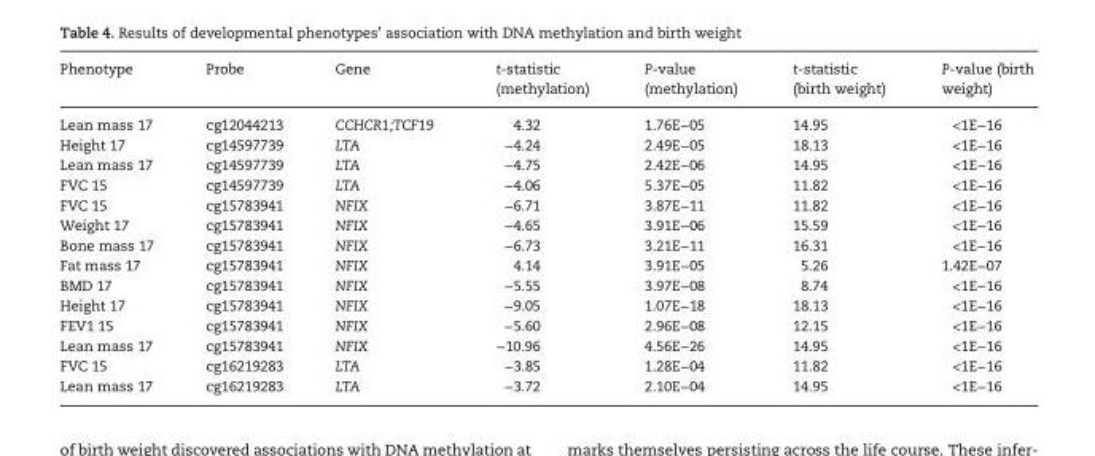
<table><thead><tr><td>Phenotype</td><td>Probe</td><td>Gene</td><td>t-statistic (methylation)</td><td>P-value (methylation)</td><td>t-statistic (birth weight)</td><td>P-value (birth weight)</td></tr></thead><tbody><tr><td>Lean mass 17</td><td>cg12044213</td><td>CCHCR1;TCF19</td><td>4.32</td><td>1.76E−05</td><td>14.95</td><td>&lt;1E−16</td></tr><tr><td>Height 17</td><td>cg14597739</td><td>LTA</td><td>−4.24</td><td>2.49E−05</td><td>18.13</td><td>&lt;1E−16</td></tr><tr><td>Lean mass 17</td><td>cg14597739</td><td>LTA</td><td>−4.75</td><td>2.42E−06</td><td>14.95</td><td>&lt;1E−16</td></tr><tr><td>FVC 15</td><td>cg14597739</td><td>LTA</td><td>−4.06</td><td>5.37E−05</td><td>11.82</td><td>&lt;1E−16</td></tr><tr><td>FVC 15</td><td>cg15783941</td><td>NFIX</td><td>−6.71</td><td>3.87E−11</td><td>11.82</td><td>&lt;1E−16</td></tr><tr><td>Weight 17</td><td>cg15783941</td><td>NFIX</td><td>−4.65</td><td>3.91E−06</td><td>15.59</td><td>&lt;1E−16</td></tr><tr><td>Bone mass 17</td><td>cg15783941</td><td>NFIX</td><td>−6.73</td><td>3.21E−11</td><td>16.31</td><td>&lt;1E−16</td></tr><tr><td>Fat mass 17</td><td>cg15783941</td><td>NFIX</td><td>4.14</td><td>3.91E−05</td><td>5.26</td><td>1.42E−07</td></tr><tr><td>BMD 17</td><td>cg15783941</td><td>NFIX</td><td>−5.55</td><td>3.97E−08</td><td>8.74</td><td>&lt;1E−16</td></tr><tr><td>Height 17</td><td>cg15783941</td><td>NFIX</td><td>−9.05</td><td>1.07E−18</td><td>18.13</td><td>&lt;1E−16</td></tr><tr><td>FEV1 15</td><td>cg15783941</td><td>NFIX</td><td>−5.60</td><td>2.96E−08</td><td>12.15</td><td>&lt;1E−16</td></tr><tr><td>Lean mass 17</td><td>cg15783941</td><td>NFIX</td><td>−10.96</td><td>4.56E−26</td><td>14.95</td><td>&lt;1E−16</td></tr><tr><td>FVC 15</td><td>cg16219283</td><td>LTA</td><td>−3.85</td><td>1.28E−04</td><td>11.82</td><td>&lt;1E−16</td></tr><tr><td>Lean mass 17</td><td>cg16219283</td><td>LTA</td><td>−3.72</td><td>2.10E−04</td><td>14.95</td><td>&lt;1E−16</td></tr></tbody></table>